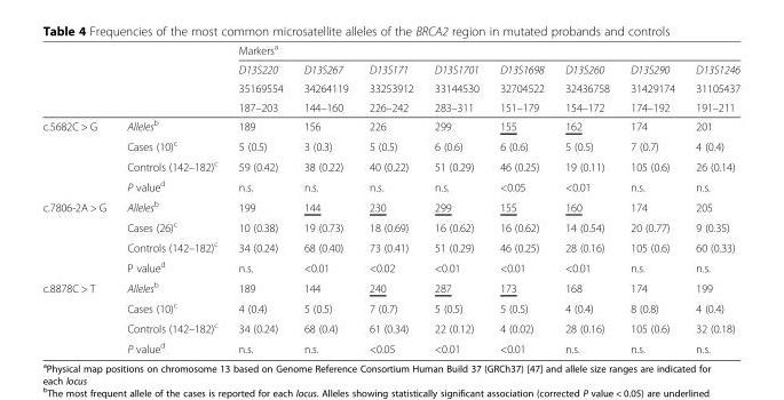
<table><thead><tr><td rowspan="4"></td><td rowspan="4"></td><td colspan="8">Markers<sup>a</sup></td></tr><tr><td rowspan="3">D13S220 35169554 187–203</td><td rowspan="3">D13S267 34264119 144–160</td><td rowspan="3">D13S171 33253912 226–242</td><td rowspan="3">D13S1701 33144530 283–311</td><td rowspan="3">D13S1698 32704522 151–179</td><td rowspan="3">D13S260 32436758 154–172</td><td rowspan="3">D13S290 31429174 174–192</td><td rowspan="3">D13S1246 31105437 191–211</td></tr><tr></tr><tr></tr></thead><tbody><tr><td rowspan="4">c.5682C &gt; G</td><td>Alleles<sup>b</sup></td><td>189</td><td>156</td><td>226</td><td>299</td><td>155</td><td>162</td><td>174</td><td>201</td></tr><tr><td>Cases (10)<sup>c</sup></td><td>5 (0.5)</td><td>3 (0.3)</td><td>5 (0.5)</td><td>6 (0.6)</td><td>6 (0.6)</td><td>5 (0.5)</td><td>7 (0.7)</td><td>4 (0.4)</td></tr><tr><td>Controls (142–182)<sup>c</sup></td><td>59 (0.42)</td><td>38 (0.22)</td><td>40 (0.22)</td><td>51 (0.29)</td><td>46 (0.25)</td><td>19 (0.11)</td><td>105 (0.6)</td><td>26 (0.14)</td></tr><tr><td>P value<sup>d</sup></td><td>n.s.</td><td>n.s.</td><td>n.s.</td><td>n.s.</td><td>&lt;0.05</td><td>&lt;0.01</td><td>n.s.</td><td>n.s.</td></tr><tr><td rowspan="4">c.7806-2A &gt; G</td><td>Alleles<sup>b</sup></td><td>199</td><td>144</td><td>230</td><td>299</td><td>155</td><td>160</td><td>174</td><td>205</td></tr><tr><td>Cases (26)<sup>c</sup></td><td>10 (0.38)</td><td>19 (0.73)</td><td>18 (0.69)</td><td>16 (0.62)</td><td>16 (0.62)</td><td>14 (0.54)</td><td>20 (0.77)</td><td>9 (0.35)</td></tr><tr><td>Controls (142–182)<sup>c</sup></td><td>34 (0.24)</td><td>68 (0.40)</td><td>73 (0.41)</td><td>51 (0.29)</td><td>46 (0.25)</td><td>28 (0.16)</td><td>105 (0.6)</td><td>60 (0.33)</td></tr><tr><td>P value<sup>d</sup></td><td>n.s.</td><td>&lt;0.01</td><td>&lt;0.02</td><td>&lt;0.01</td><td>&lt;0.01</td><td>&lt;0.01</td><td>n.s.</td><td>n.s.</td></tr><tr><td rowspan="4">c.8878C &gt; T</td><td>Alleles<sup>b</sup></td><td>189</td><td>144</td><td>240</td><td>287</td><td>173</td><td>168</td><td>174</td><td>199</td></tr><tr><td>Cases (10)<sup>c</sup></td><td>4 (0.4)</td><td>5 (0.5)</td><td>7 (0.7)</td><td>5 (0.5)</td><td>5 (0.5)</td><td>4 (0.4)</td><td>8 (0.8)</td><td>4 (0.4)</td></tr><tr><td>Controls (142–182)<sup>c</sup></td><td>34 (0.24)</td><td>68 (0.4)</td><td>61 (0.34)</td><td>22 (0.12)</td><td>4 (0.02)</td><td>28 (0.16)</td><td>105 (0.6)</td><td>32 (0.18)</td></tr><tr><td>P value<sup>d</sup></td><td>n.s.</td><td>n.s.</td><td>&lt;0.05</td><td>&lt;0.01</td><td>&lt;0.01</td><td>n.s.</td><td>n.s.</td><td>n.s.</td></tr></tbody></table>